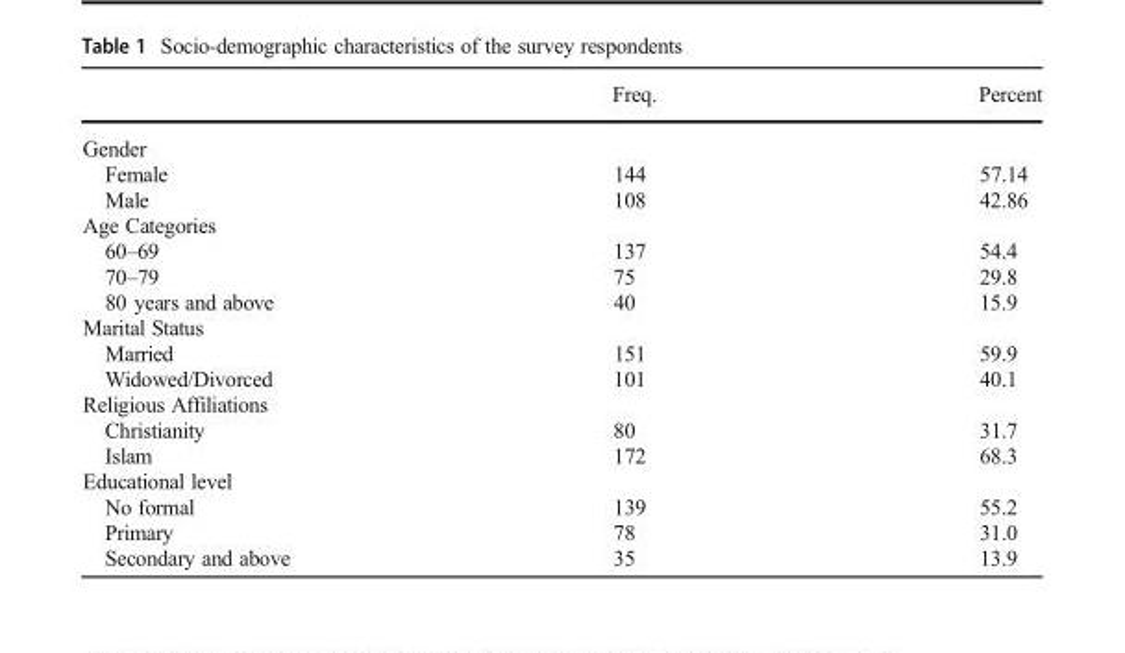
<table><thead><tr><td></td><td>Freq.</td><td>Percent</td></tr></thead><tbody><tr><td colspan="3">Gender</td></tr><tr><td>Female</td><td>144</td><td>57.14</td></tr><tr><td>Male</td><td>108</td><td>42.86</td></tr><tr><td colspan="3">Age Categories</td></tr><tr><td>60–69</td><td>137</td><td>54.4</td></tr><tr><td>70–79</td><td>75</td><td>29.8</td></tr><tr><td>80 years and above</td><td>40</td><td>15.9</td></tr><tr><td colspan="3">Marital Status</td></tr><tr><td>Married</td><td>151</td><td>59.9</td></tr><tr><td>Widowed/Divorced</td><td>101</td><td>40.1</td></tr><tr><td colspan="3">Religious Affiliations</td></tr><tr><td>Christianity</td><td>80</td><td>31.7</td></tr><tr><td>Islam</td><td>172</td><td>68.3</td></tr><tr><td colspan="3">Educational level</td></tr><tr><td>No formal</td><td>139</td><td>55.2</td></tr><tr><td>Primary</td><td>78</td><td>31.0</td></tr><tr><td>Secondary and above</td><td>35</td><td>13.9</td></tr></tbody></table>